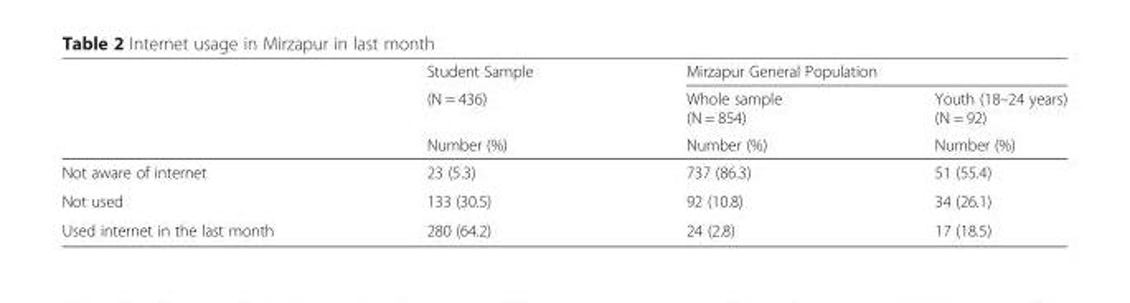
<table><thead><tr><td rowspan="3"></td><td rowspan="3">Student Sample (N = 436) Number (%)</td><td colspan="2">Mirzapur General Population</td></tr><tr><td rowspan="2">Whole sample (N = 854) Number (%)</td><td rowspan="2">Youth (18–24 years) (N = 92) Number (%)</td></tr><tr></tr></thead><tbody><tr><td>Not aware of internet</td><td>23 (5.3)</td><td>737 (86.3)</td><td>51 (55.4)</td></tr><tr><td>Not used</td><td>133 (30.5)</td><td>92 (10.8)</td><td>34 (26.1)</td></tr><tr><td>Used internet in the last month</td><td>280 (64.2)</td><td>24 (2.8)</td><td>17 (18.5)</td></tr></tbody></table>